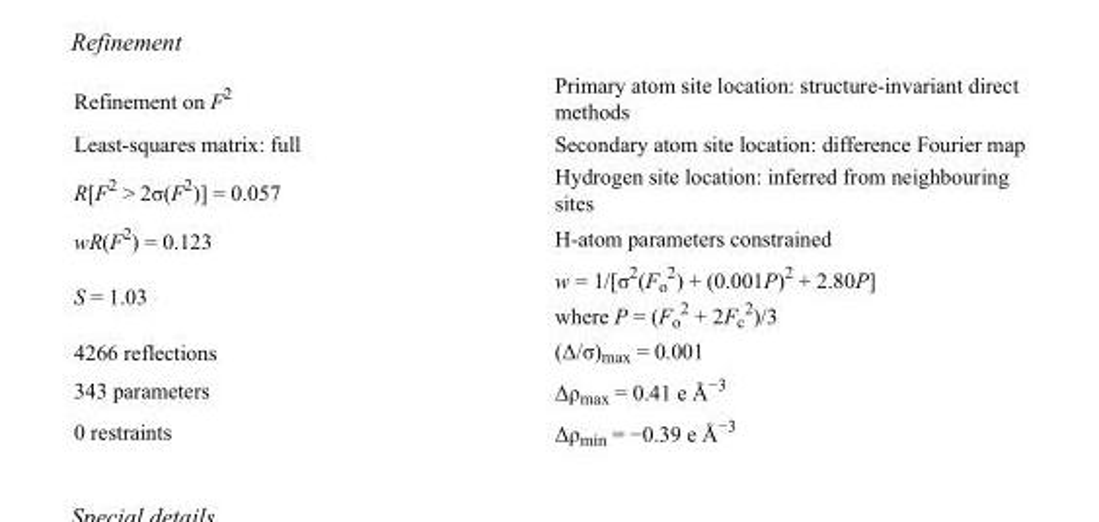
<table><tbody><tr><td>Refinement on F<sup>2</sup></td><td>Primary atom site location: structure-invariant direct methods</td></tr><tr><td>Least-squares matrix: full</td><td>Secondary atom site location: difference Fourier map</td></tr><tr><td>R[F<sup>2</sup> &gt; 2σ(F<sup>2</sup>)] = 0.057</td><td>Hydrogen site location: inferred from neighbouring sites</td></tr><tr><td>wR(F<sup>2</sup>) = 0.123</td><td>H-atom parameters constrained</td></tr><tr><td>S = 1.03</td><td>w = 1/[σ<sup>2</sup>(F<sub>o</sub> <sup>2</sup>) + (0.001P)<sup>2</sup> + 2.80P] where P = (F<sub>o</sub> <sup>2</sup> + 2F<sub>c</sub> <sup>2</sup>)/3</td></tr><tr><td>4266 reflections</td><td>(Δ/σ)<sub>max</sub> = 0.001</td></tr><tr><td>343 parameters</td><td>Δρ<sub>max</sub> = 0.41 e Å<sup>−3</sup></td></tr><tr><td>0 restraints</td><td>Δρ<sub>min</sub> = −0.39 e Å<sup>−3</sup></td></tr></tbody></table>